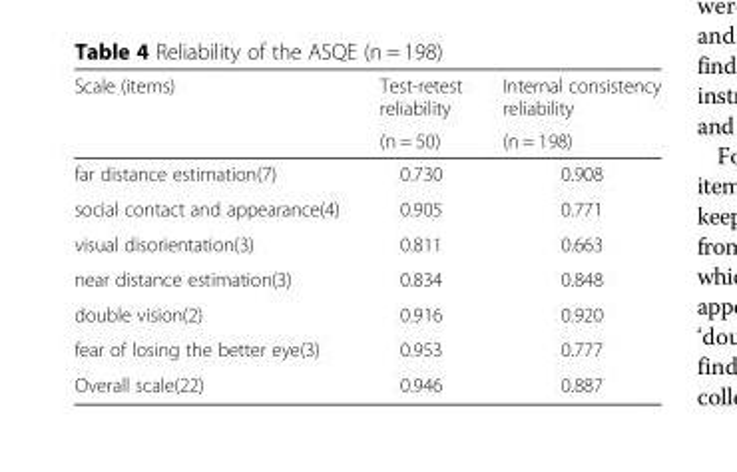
<table><thead><tr><td rowspan="2">Scale (items)</td><td rowspan="2">Test-retest reliability (n = 50)</td><td rowspan="2">Internal consistency reliability (n = 198)</td></tr><tr></tr></thead><tbody><tr><td>far distance estimation(7)</td><td>0.730</td><td>0.908</td></tr><tr><td>social contact and appearance(4)</td><td>0.905</td><td>0.771</td></tr><tr><td>visual disorientation(3)</td><td>0.811</td><td>0.663</td></tr><tr><td>near distance estimation(3)</td><td>0.834</td><td>0.848</td></tr><tr><td>double vision(2)</td><td>0.916</td><td>0.920</td></tr><tr><td>fear of losing the better eye(3)</td><td>0.953</td><td>0.777</td></tr><tr><td>Overall scale(22)</td><td>0.946</td><td>0.887</td></tr></tbody></table>